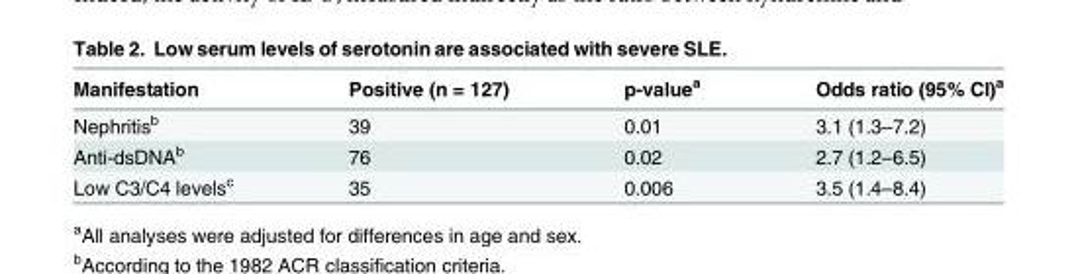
<table><thead><tr><td>Manifestation</td><td>Positive (n = 127)</td><td>p-value<sup>a</sup></td><td>Odds ratio (95% CI)<sup>a</sup></td></tr></thead><tbody><tr><td>Nephritis<sup>b</sup></td><td>39</td><td>0.01</td><td>3.1 (1.3–7.2)</td></tr><tr><td>Anti-dsDNA<sup>b</sup></td><td>76</td><td>0.02</td><td>2.7 (1.2–6.5)</td></tr><tr><td>Low C3/C4 levels<sup>c</sup></td><td>35</td><td>0.006</td><td>3.5 (1.4–8.4)</td></tr></tbody></table>